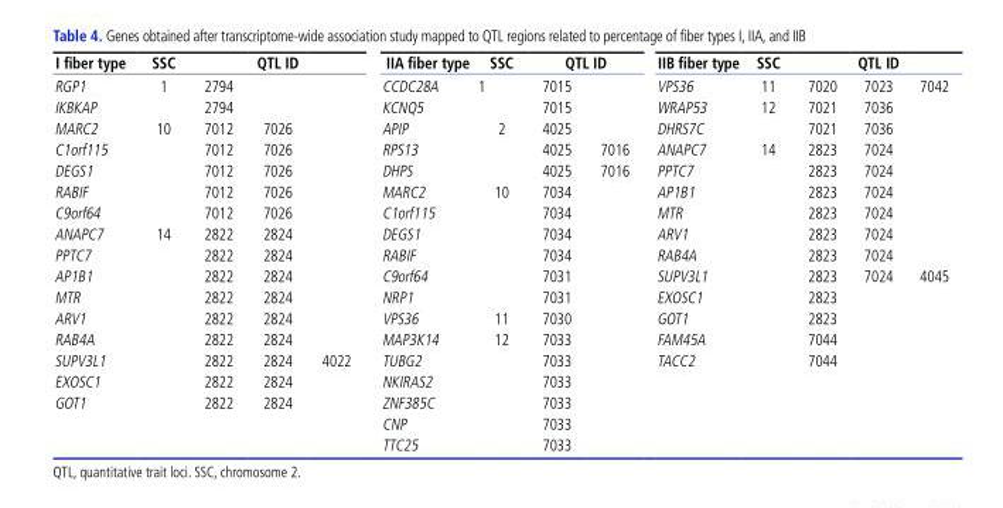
<table><thead><tr><td rowspan="2">I fiber type RGP1</td><td rowspan="2">SSC 1</td><td colspan="3">QTL ID</td><td rowspan="2">IIA fiber type CCDC28A</td><td rowspan="2">SSC 1</td><td colspan="2">QTL ID</td><td rowspan="2">IIB fiber type VPS36</td><td rowspan="2">SSC 11</td><td colspan="3">QTL ID</td></tr><tr><td>2794</td><td></td><td></td><td>7015</td><td></td><td>7020</td><td>7023</td><td>7042</td></tr></thead><tbody><tr><td>IKBKAP</td><td></td><td>2794</td><td></td><td></td><td>KCNQ5</td><td></td><td>7015</td><td></td><td>WRAP53</td><td>12</td><td>7021</td><td>7036</td><td></td></tr><tr><td>MARC2</td><td>10</td><td>7012</td><td>7026</td><td></td><td>APIP</td><td>2</td><td>4025</td><td></td><td>DHRS7C</td><td></td><td>7021</td><td>7036</td><td></td></tr><tr><td>C1orf115</td><td></td><td>7012</td><td>7026</td><td></td><td>RPS13</td><td></td><td>4025</td><td>7016</td><td>ANAPC7</td><td>14</td><td>2823</td><td>7024</td><td></td></tr><tr><td>DEGS1</td><td></td><td>7012</td><td>7026</td><td></td><td>DHPS</td><td></td><td>4025</td><td>7016</td><td>PPTC7</td><td></td><td>2823</td><td>7024</td><td></td></tr><tr><td>RABIF</td><td></td><td>7012</td><td>7026</td><td></td><td>MARC2</td><td>10</td><td>7034</td><td></td><td>AP1B1</td><td></td><td>2823</td><td>7024</td><td></td></tr><tr><td>C9orf64</td><td></td><td>7012</td><td>7026</td><td></td><td>C1orf115</td><td></td><td>7034</td><td></td><td>MTR</td><td></td><td>2823</td><td>7024</td><td></td></tr><tr><td>ANAPC7</td><td>14</td><td>2822</td><td>2824</td><td></td><td>DEGS1</td><td></td><td>7034</td><td></td><td>ARV1</td><td></td><td>2823</td><td>7024</td><td></td></tr><tr><td>PPTC7</td><td></td><td>2822</td><td>2824</td><td></td><td>RABIF</td><td></td><td>7034</td><td></td><td>RAB4A</td><td></td><td>2823</td><td>7024</td><td></td></tr><tr><td>AP1B1</td><td></td><td>2822</td><td>2824</td><td></td><td>C9orf64</td><td></td><td>7031</td><td></td><td>SUPV3L1</td><td></td><td>2823</td><td>7024</td><td>4045</td></tr><tr><td>MTR</td><td></td><td>2822</td><td>2824</td><td></td><td>NRP1</td><td></td><td>7031</td><td></td><td>EXOSC1</td><td></td><td>2823</td><td></td><td></td></tr><tr><td>ARV1</td><td></td><td>2822</td><td>2824</td><td></td><td>VPS36</td><td>11</td><td>7030</td><td></td><td>GOT1</td><td></td><td>2823</td><td></td><td></td></tr><tr><td>RAB4A</td><td></td><td>2822</td><td>2824</td><td></td><td>MAP3K14</td><td>12</td><td>7033</td><td></td><td>FAM45A</td><td></td><td>7044</td><td></td><td></td></tr><tr><td>SUPV3L1</td><td></td><td>2822</td><td>2824</td><td>4022</td><td>TUBG2</td><td></td><td>7033</td><td></td><td>TACC2</td><td></td><td>7044</td><td></td><td></td></tr><tr><td>EXOSC1</td><td></td><td>2822</td><td>2824</td><td></td><td>NKIRAS2</td><td></td><td>7033</td><td></td><td></td><td></td><td></td><td></td><td></td></tr><tr><td rowspan="3">GOT1</td><td></td><td>2822</td><td>2824</td><td></td><td>ZNF385C</td><td></td><td>7033</td><td></td><td></td><td></td><td></td><td></td><td></td></tr><tr><td></td><td></td><td></td><td></td><td>CNP</td><td></td><td>7033</td><td></td><td></td><td></td><td></td><td></td><td></td></tr><tr><td></td><td></td><td></td><td></td><td>TTC25</td><td></td><td>7033</td><td></td><td></td><td></td><td></td><td></td><td></td></tr></tbody></table>